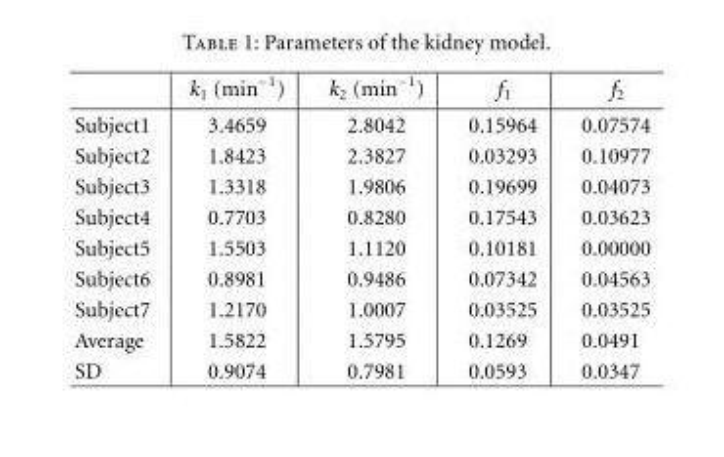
<table><thead><tr><td></td><td>k<sub>1</sub> (min<sup>−1</sup>)</td><td>k<sub>2</sub> (min<sup>−1</sup>)</td><td>f<sub>1</sub></td><td>f<sub>2</sub></td></tr></thead><tbody><tr><td>Subject1</td><td>3.4659</td><td>2.8042</td><td>0.15964</td><td>0.07574</td></tr><tr><td>Subject2</td><td>1.8423</td><td>2.3827</td><td>0.03293</td><td>0.10977</td></tr><tr><td>Subject3</td><td>1.3318</td><td>1.9806</td><td>0.19699</td><td>0.04073</td></tr><tr><td>Subject4</td><td>0.7703</td><td>0.8280</td><td>0.17543</td><td>0.03623</td></tr><tr><td>Subject5</td><td>1.5503</td><td>1.1120</td><td>0.10181</td><td>0.00000</td></tr><tr><td>Subject6</td><td>0.8981</td><td>0.9486</td><td>0.07342</td><td>0.04563</td></tr><tr><td>Subject7</td><td>1.2170</td><td>1.0007</td><td>0.03525</td><td>0.03525</td></tr><tr><td>Average</td><td>1.5822</td><td>1.5795</td><td>0.1269</td><td>0.0491</td></tr><tr><td>SD</td><td>0.9074</td><td>0.7981</td><td>0.0593</td><td>0.0347</td></tr></tbody></table>